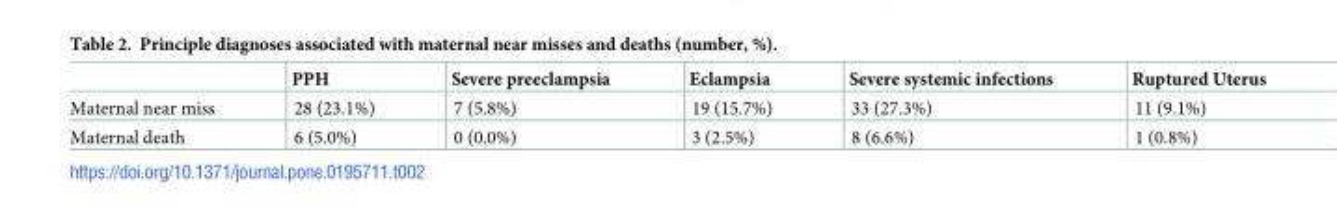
<table><thead><tr><td></td><td>PPH</td><td>Severe preeclampsia</td><td>Eclampsia</td><td>Severe systemic infections</td><td>Ruptured Uterus</td></tr></thead><tbody><tr><td>Maternal near miss</td><td>28 (23.1%)</td><td>7 (5.8%)</td><td>19 (15.7%)</td><td>33 (27.3%)</td><td>11 (9.1%)</td></tr><tr><td>Maternal death</td><td>6 (5.0%)</td><td>0 (0.0%)</td><td>3 (2.5%)</td><td>8 (6.6%)</td><td>1 (0.8%)</td></tr></tbody></table>